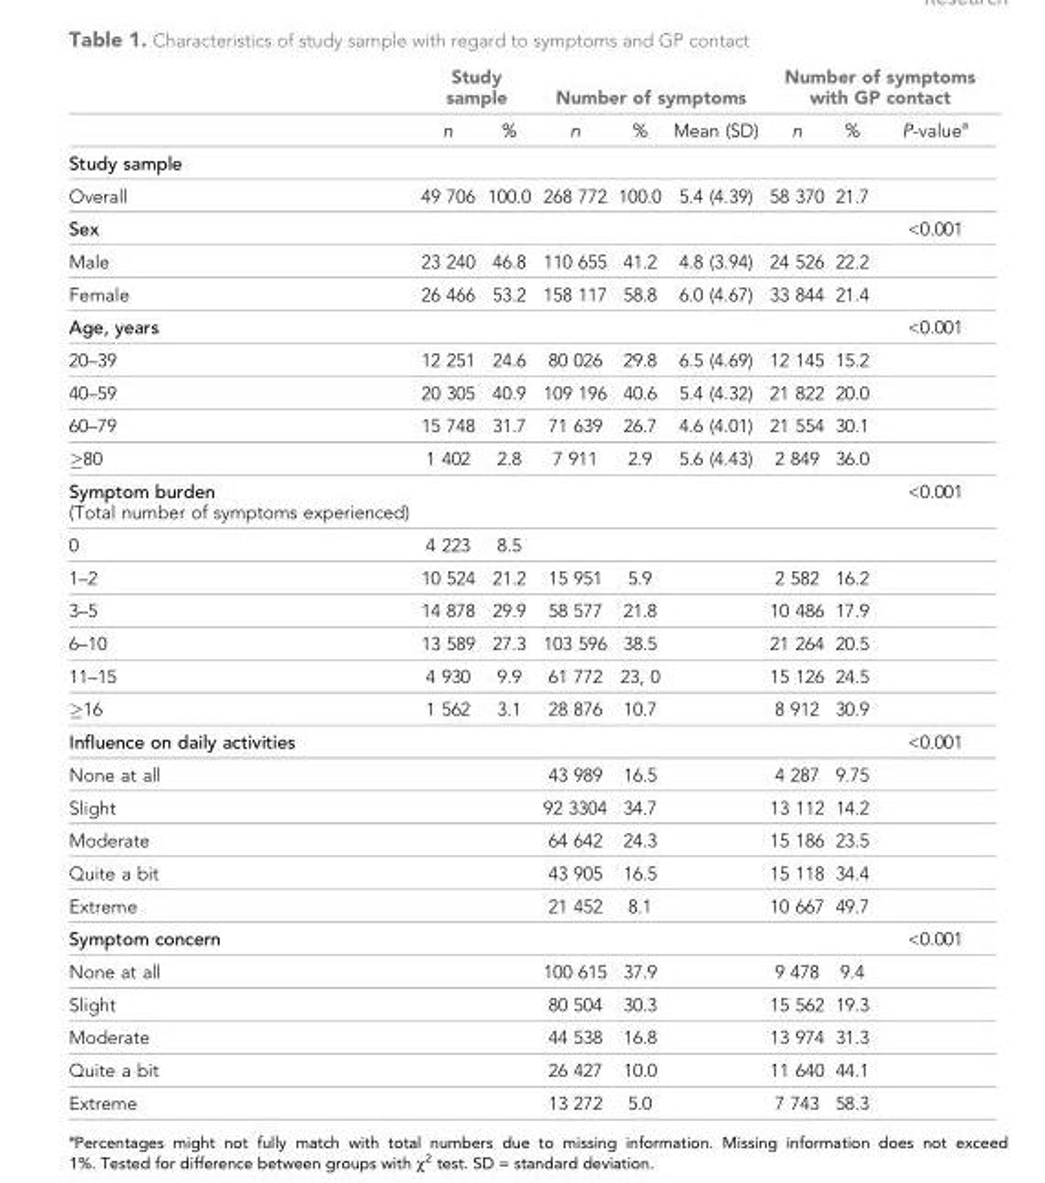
<table><thead><tr><td rowspan="2"></td><td colspan="2">Study sample</td><td colspan="3">Number of symptoms</td><td colspan="3">Number of symptoms with GP contact</td></tr><tr><td>n</td><td>%</td><td>n</td><td>%</td><td>Mean (SD)</td><td>n</td><td>%</td><td>P-value<sup>a</sup></td></tr></thead><tbody><tr><td colspan="9">Study sample</td></tr><tr><td>Overall</td><td>49 706</td><td>100.0</td><td>268 772</td><td>100.0</td><td>5.4 (4.39)</td><td>58 370</td><td>21.7</td><td></td></tr><tr><td>Sex</td><td></td><td></td><td></td><td></td><td></td><td></td><td></td><td>&lt;0.001</td></tr><tr><td>Male</td><td>23 240</td><td>46.8</td><td>110 655</td><td>41.2</td><td>4.8 (3.94)</td><td>24 526</td><td>22.2</td><td></td></tr><tr><td>Female</td><td>26 466</td><td>53.2</td><td>158 117</td><td>58.8</td><td>6.0 (4.67)</td><td>33 844</td><td>21.4</td><td></td></tr><tr><td>Age, years</td><td></td><td></td><td></td><td></td><td></td><td></td><td></td><td>&lt;0.001</td></tr><tr><td>20–39</td><td>12 251</td><td>24.6</td><td>80 026</td><td>29.8</td><td>6.5 (4.69)</td><td>12 145</td><td>15.2</td><td></td></tr><tr><td>40–59</td><td>20 305</td><td>40.9</td><td>109 196</td><td>40.6</td><td>5.4 (4.32)</td><td>21 822</td><td>20.0</td><td></td></tr><tr><td>60–79</td><td>15 748</td><td>31.7</td><td>71 639</td><td>26.7</td><td>4.6 (4.01)</td><td>21 554</td><td>30.1</td><td></td></tr><tr><td>≥80</td><td>1 402</td><td>2.8</td><td>7 911</td><td>2.9</td><td>5.6 (4.43)</td><td>2 849</td><td>36.0</td><td></td></tr><tr><td>Symptom burden (Total number of symptoms experienced)</td><td></td><td></td><td></td><td></td><td></td><td></td><td></td><td>&lt;0.001</td></tr><tr><td>0</td><td>4 223</td><td>8.5</td><td></td><td></td><td></td><td></td><td></td><td></td></tr><tr><td>1–2</td><td>10 524</td><td>21.2</td><td>15 951</td><td>5.9</td><td></td><td>2 582</td><td>16.2</td><td></td></tr><tr><td>3–5</td><td>14 878</td><td>29.9</td><td>58 577</td><td>21.8</td><td></td><td>10 486</td><td>17.9</td><td></td></tr><tr><td>6–10</td><td>13 589</td><td>27.3</td><td>103 596</td><td>38.5</td><td></td><td>21 264</td><td>20.5</td><td></td></tr><tr><td>11–15</td><td>4 930</td><td>9.9</td><td>61 772</td><td>23, 0</td><td></td><td>15 126</td><td>24.5</td><td></td></tr><tr><td>≥16</td><td>1 562</td><td>3.1</td><td>28 876</td><td>10.7</td><td></td><td>8 912</td><td>30.9</td><td></td></tr><tr><td>Influence on daily activities</td><td></td><td></td><td></td><td></td><td></td><td></td><td></td><td>&lt;0.001</td></tr><tr><td>None at all</td><td></td><td></td><td>43 989</td><td>16.5</td><td></td><td>4 287</td><td>9.75</td><td></td></tr><tr><td>Slight</td><td></td><td></td><td>92 3304</td><td>34.7</td><td></td><td>13 112</td><td>14.2</td><td></td></tr><tr><td>Moderate</td><td></td><td></td><td>64 642</td><td>24.3</td><td></td><td>15 186</td><td>23.5</td><td></td></tr><tr><td>Quite a bit</td><td></td><td></td><td>43 905</td><td>16.5</td><td></td><td>15 118</td><td>34.4</td><td></td></tr><tr><td>Extreme</td><td></td><td></td><td>21 452</td><td>8.1</td><td></td><td>10 667</td><td>49.7</td><td></td></tr><tr><td>Symptom concern</td><td></td><td></td><td></td><td></td><td></td><td></td><td></td><td>&lt;0.001</td></tr><tr><td>None at all</td><td></td><td></td><td>100 615</td><td>37.9</td><td></td><td>9 478</td><td>9.4</td><td></td></tr><tr><td>Slight</td><td></td><td></td><td>80 504</td><td>30.3</td><td></td><td>15 562</td><td>19.3</td><td></td></tr><tr><td>Moderate</td><td></td><td></td><td>44 538</td><td>16.8</td><td></td><td>13 974</td><td>31.3</td><td></td></tr><tr><td>Quite a bit</td><td></td><td></td><td>26 427</td><td>10.0</td><td></td><td>11 640</td><td>44.1</td><td></td></tr><tr><td>Extreme</td><td></td><td></td><td>13 272</td><td>5.0</td><td></td><td>7 743</td><td>58.3</td><td></td></tr></tbody></table>